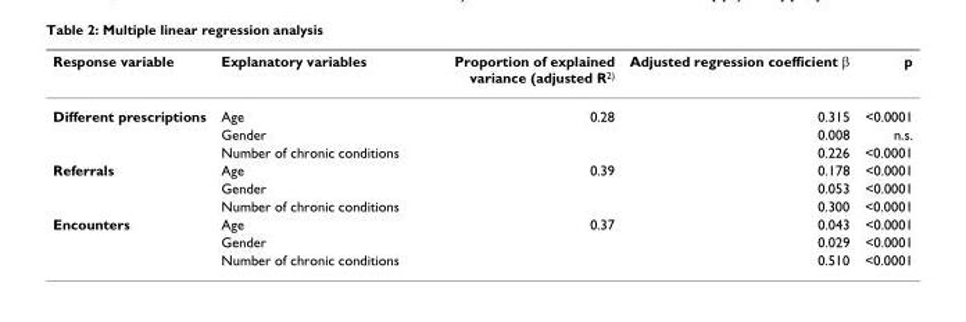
<table><thead><tr><td>Response variable</td><td>Explanatory variables</td><td>Proportion of explained variance (adjusted R<sup>2)</sup></td><td>Adjusted regression coefficient β</td><td>p</td></tr></thead><tbody><tr><td rowspan="3">Different prescriptions</td><td>Age</td><td>0.28</td><td>0.315</td><td>&lt;0.0001</td></tr><tr><td>Gender</td><td></td><td>0.008</td><td>n.s.</td></tr><tr><td>Number of chronic conditions</td><td></td><td>0.226</td><td>&lt;0.0001</td></tr><tr><td rowspan="3">Referrals</td><td>Age</td><td>0.39</td><td>0.178</td><td>&lt;0.0001</td></tr><tr><td>Gender</td><td></td><td>0.053</td><td>&lt;0.0001</td></tr><tr><td>Number of chronic conditions</td><td></td><td>0.300</td><td>&lt;0.0001</td></tr><tr><td rowspan="3">Encounters</td><td>Age</td><td>0.37</td><td>0.043</td><td>&lt;0.0001</td></tr><tr><td>Gender</td><td></td><td>0.029</td><td>&lt;0.0001</td></tr><tr><td>Number of chronic conditions</td><td></td><td>0.510</td><td>&lt;0.0001</td></tr></tbody></table>